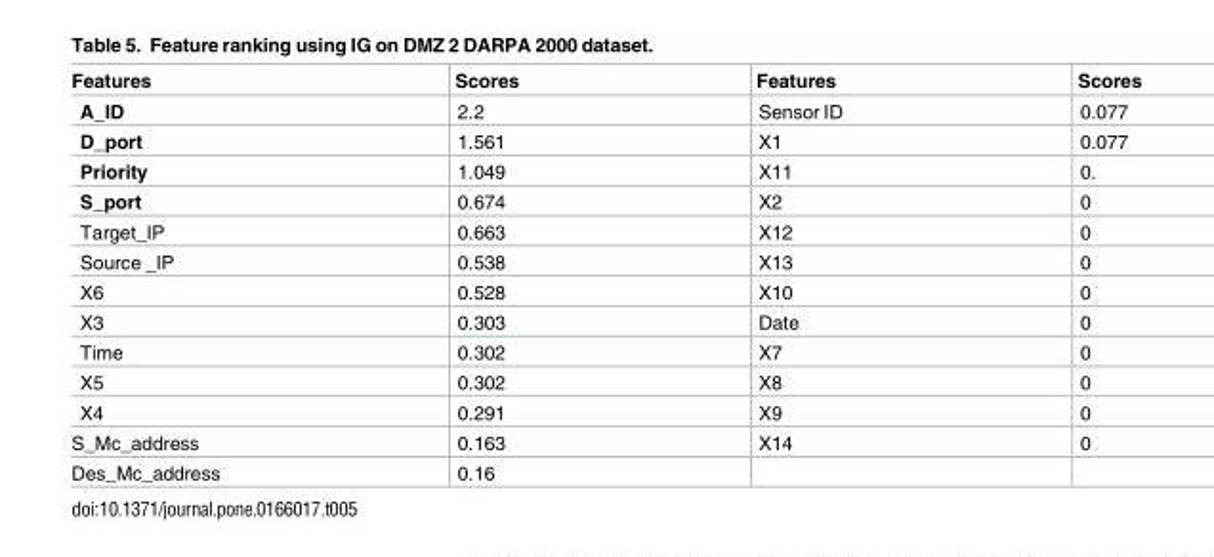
<table><thead><tr><td>Features</td><td>Scores</td><td>Features</td><td>Scores</td></tr></thead><tbody><tr><td>A_ID</td><td>2.2</td><td>Sensor ID</td><td>0.077</td></tr><tr><td>D_port</td><td>1.561</td><td>X1</td><td>0.077</td></tr><tr><td>Priority</td><td>1.049</td><td>X11</td><td>0.</td></tr><tr><td>S_port</td><td>0.674</td><td>X2</td><td>0</td></tr><tr><td>Target_IP</td><td>0.663</td><td>X12</td><td>0</td></tr><tr><td>Source _IP</td><td>0.538</td><td>X13</td><td>0</td></tr><tr><td>X6</td><td>0.528</td><td>X10</td><td>0</td></tr><tr><td>X3</td><td>0.303</td><td>Date</td><td>0</td></tr><tr><td>Time</td><td>0.302</td><td>X7</td><td>0</td></tr><tr><td>X5</td><td>0.302</td><td>X8</td><td>0</td></tr><tr><td>X4</td><td>0.291</td><td>X9</td><td>0</td></tr><tr><td>S_Mc_address</td><td>0.163</td><td>X14</td><td>0</td></tr><tr><td>Des_Mc_address</td><td>0.16</td><td></td><td></td></tr></tbody></table>